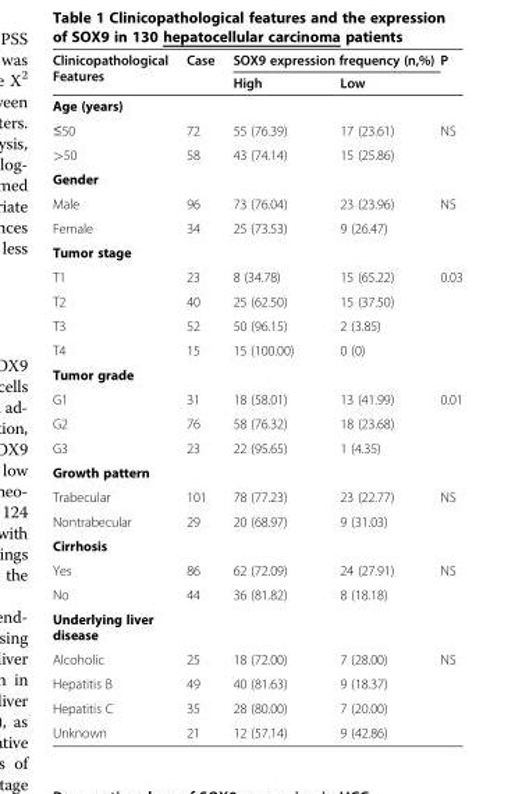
<table><thead><tr><td rowspan="2">Clinicopathological Features</td><td rowspan="2">Case</td><td colspan="2">SOX9 expression frequency (n,%)</td><td rowspan="2">P</td></tr><tr><td>High</td><td>Low</td></tr></thead><tbody><tr><td colspan="5">Age (years)</td></tr><tr><td>≤50</td><td>72</td><td>55 (76.39)</td><td>17 (23.61)</td><td>NS</td></tr><tr><td>&gt;50</td><td>58</td><td>43 (74.14)</td><td>15 (25.86)</td><td></td></tr><tr><td colspan="5">Gender</td></tr><tr><td>Male</td><td>96</td><td>73 (76.04)</td><td>23 (23.96)</td><td>NS</td></tr><tr><td>Female</td><td>34</td><td>25 (73.53)</td><td>9 (26.47)</td><td></td></tr><tr><td colspan="5">Tumor stage</td></tr><tr><td>T1</td><td>23</td><td>8 (34.78)</td><td>15 (65.22)</td><td>0.03</td></tr><tr><td>T2</td><td>40</td><td>25 (62.50)</td><td>15 (37.50)</td><td></td></tr><tr><td>T3</td><td>52</td><td>50 (96.15)</td><td>2 (3.85)</td><td></td></tr><tr><td>T4</td><td>15</td><td>15 (100.00)</td><td>0 (0)</td><td></td></tr><tr><td colspan="5">Tumor grade</td></tr><tr><td>G1</td><td>31</td><td>18 (58.01)</td><td>13 (41.99)</td><td>0.01</td></tr><tr><td>G2</td><td>76</td><td>58 (76.32)</td><td>18 (23.68)</td><td></td></tr><tr><td>G3</td><td>23</td><td>22 (95.65)</td><td>1 (4.35)</td><td></td></tr><tr><td colspan="5">Growth pattern</td></tr><tr><td>Trabecular</td><td>101</td><td>78 (77.23)</td><td>23 (22.77)</td><td>NS</td></tr><tr><td>Nontrabecular</td><td>29</td><td>20 (68.97)</td><td>9 (31.03)</td><td></td></tr><tr><td colspan="5">Cirrhosis</td></tr><tr><td>Yes</td><td>86</td><td>62 (72.09)</td><td>24 (27.91)</td><td>NS</td></tr><tr><td>No</td><td>44</td><td>36 (81.82)</td><td>8 (18.18)</td><td></td></tr><tr><td colspan="5">Underlying liver disease</td></tr><tr><td>Alcoholic</td><td>25</td><td>18 (72.00)</td><td>7 (28.00)</td><td>NS</td></tr><tr><td>Hepatitis B</td><td>49</td><td>40 (81.63)</td><td>9 (18.37)</td><td></td></tr><tr><td>Hepatitis C</td><td>35</td><td>28 (80.00)</td><td>7 (20.00)</td><td></td></tr><tr><td>Unknown</td><td>21</td><td>12 (57.14)</td><td>9 (42.86)</td><td></td></tr></tbody></table>